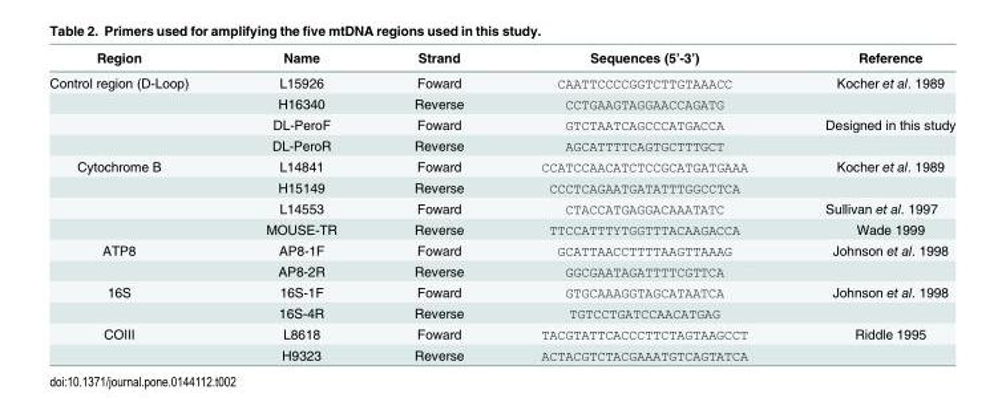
<table><thead><tr><td>Region</td><td>Name</td><td>Strand</td><td>Sequences (5’-3’)</td><td>Reference</td></tr></thead><tbody><tr><td rowspan="4">Control region (D-Loop)</td><td>L15926</td><td>Foward</td><td>CAATTCCCCGGTCTTGTAAACC</td><td>Kocher et al. 1989</td></tr><tr><td>H16340</td><td>Reverse</td><td>CCTGAAGTAGGAACCAGATG</td><td></td></tr><tr><td>DL-PeroF</td><td>Foward</td><td>GTCTAATCAGCCCATGACCA</td><td>Designed in this study</td></tr><tr><td>DL-PeroR</td><td>Reverse</td><td>AGCATTTTCAGTGCTTTGCT</td><td></td></tr><tr><td rowspan="4">Cytochrome B</td><td>L14841</td><td>Foward</td><td>CCATCCAACATCTCCGCATGATGAAA</td><td>Kocher et al. 1989</td></tr><tr><td>H15149</td><td>Reverse</td><td>CCCTCAGAATGATATTTGGCCTCA</td><td></td></tr><tr><td>L14553</td><td>Foward</td><td>CTACCATGAGGACAAATATC</td><td>Sullivan et al. 1997</td></tr><tr><td>MOUSE-TR</td><td>Reverse</td><td>TTCCATTTYTGGTTTACAAGACCA</td><td>Wade 1999</td></tr><tr><td rowspan="2">ATP8</td><td>AP8-1F</td><td>Foward</td><td>GCATTAACCTTTTAAGTTAAAG</td><td>Johnson et al. 1998</td></tr><tr><td>AP8-2R</td><td>Reverse</td><td>GGCGAATAGATTTTCGTTCA</td><td></td></tr><tr><td rowspan="2">16S</td><td>16S-1F</td><td>Foward</td><td>GTGCAAAGGTAGCATAATCA</td><td>Johnson et al. 1998</td></tr><tr><td>16S-4R</td><td>Reverse</td><td>TGTCCTGATCCAACATGAG</td><td></td></tr><tr><td rowspan="2">COIII</td><td>L8618</td><td>Foward</td><td>TACGTATTCACCCTTCTAGTAAGCCT</td><td>Riddle 1995</td></tr><tr><td>H9323</td><td>Reverse</td><td>ACTACGTCTACGAAATGTCAGTATCA</td><td></td></tr></tbody></table>